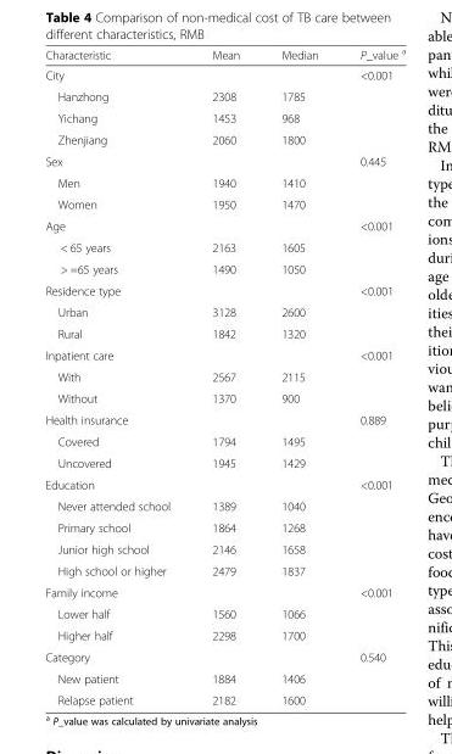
<table><thead><tr><td>Characteristic</td><td>Mean</td><td>Median</td><td>P_value <sup>a</sup></td></tr></thead><tbody><tr><td>City</td><td></td><td></td><td>&lt;0.001</td></tr><tr><td>Hanzhong</td><td>2308</td><td>1785</td><td></td></tr><tr><td>Yichang</td><td>1453</td><td>968</td><td></td></tr><tr><td>Zhenjiang</td><td>2060</td><td>1800</td><td></td></tr><tr><td>Sex</td><td></td><td></td><td>0.445</td></tr><tr><td>Men</td><td>1940</td><td>1410</td><td></td></tr><tr><td>Women</td><td>1950</td><td>1470</td><td></td></tr><tr><td>Age</td><td></td><td></td><td>&lt;0.001</td></tr><tr><td>&lt; 65 years</td><td>2163</td><td>1605</td><td></td></tr><tr><td>&gt; =65 years</td><td>1490</td><td>1050</td><td></td></tr><tr><td>Residence type</td><td></td><td></td><td>&lt;0.001</td></tr><tr><td>Urban</td><td>3128</td><td>2600</td><td></td></tr><tr><td>Rural</td><td>1842</td><td>1320</td><td></td></tr><tr><td>Inpatient care</td><td></td><td></td><td>&lt;0.001</td></tr><tr><td>With</td><td>2567</td><td>2115</td><td></td></tr><tr><td>Without</td><td>1370</td><td>900</td><td></td></tr><tr><td>Health insurance</td><td></td><td></td><td>0.889</td></tr><tr><td>Covered</td><td>1794</td><td>1495</td><td></td></tr><tr><td>Uncovered</td><td>1945</td><td>1429</td><td></td></tr><tr><td>Education</td><td></td><td></td><td>&lt;0.001</td></tr><tr><td>Never attended school</td><td>1389</td><td>1040</td><td></td></tr><tr><td>Primary school</td><td>1864</td><td>1268</td><td></td></tr><tr><td>Junior high school</td><td>2146</td><td>1658</td><td></td></tr><tr><td>High school or higher</td><td>2479</td><td>1837</td><td></td></tr><tr><td>Family income</td><td></td><td></td><td>&lt;0.001</td></tr><tr><td>Lower half</td><td>1560</td><td>1066</td><td></td></tr><tr><td>Higher half</td><td>2298</td><td>1700</td><td></td></tr><tr><td>Category</td><td></td><td></td><td>0.540</td></tr><tr><td>New patient</td><td>1884</td><td>1406</td><td></td></tr><tr><td>Relapse patient</td><td>2182</td><td>1600</td><td></td></tr></tbody></table>